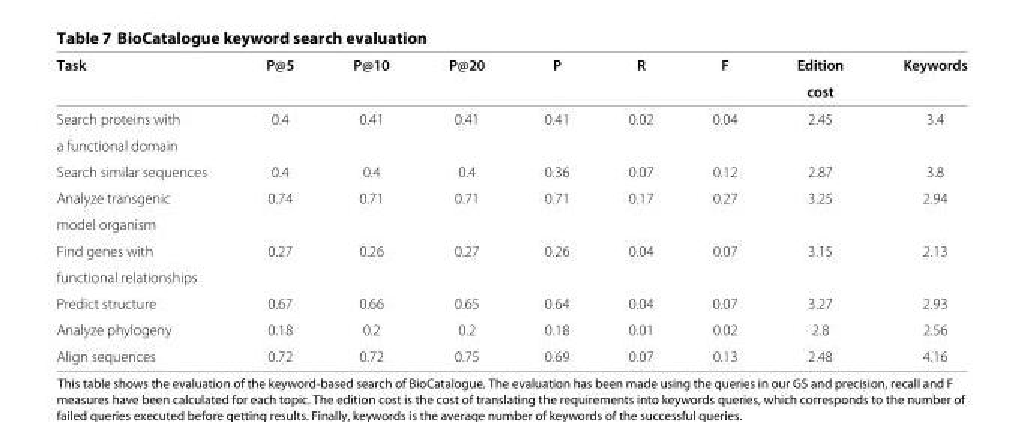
<table><thead><tr><td rowspan="2">Task</td><td rowspan="2">P@5</td><td rowspan="2">P@10</td><td rowspan="2">P@20</td><td rowspan="2">P</td><td rowspan="2">R</td><td rowspan="2">F</td><td rowspan="2">Edition cost</td><td rowspan="2">Keywords</td></tr><tr></tr></thead><tbody><tr><td>Search proteins with</td><td>0.4</td><td>0.41</td><td>0.41</td><td>0.41</td><td>0.02</td><td>0.04</td><td>2.45</td><td>3.4</td></tr><tr><td colspan="9">a functional domain</td></tr><tr><td>Search similar sequences</td><td>0.4</td><td>0.4</td><td>0.4</td><td>0.36</td><td>0.07</td><td>0.12</td><td>2.87</td><td>3.8</td></tr><tr><td>Analyze transgenic</td><td>0.74</td><td>0.71</td><td>0.71</td><td>0.71</td><td>0.17</td><td>0.27</td><td>3.25</td><td>2.94</td></tr><tr><td colspan="9">model organism</td></tr><tr><td>Find genes with</td><td>0.27</td><td>0.26</td><td>0.27</td><td>0.26</td><td>0.04</td><td>0.07</td><td>3.15</td><td>2.13</td></tr><tr><td colspan="9">functional relationships</td></tr><tr><td>Predict structure</td><td>0.67</td><td>0.66</td><td>0.65</td><td>0.64</td><td>0.04</td><td>0.07</td><td>3.27</td><td>2.93</td></tr><tr><td>Analyze phylogeny</td><td>0.18</td><td>0.2</td><td>0.2</td><td>0.18</td><td>0.01</td><td>0.02</td><td>2.8</td><td>2.56</td></tr><tr><td>Align sequences</td><td>0.72</td><td>0.72</td><td>0.75</td><td>0.69</td><td>0.07</td><td>0.13</td><td>2.48</td><td>4.16</td></tr></tbody></table>